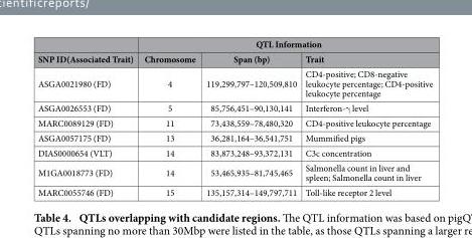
<table><thead><tr><td rowspan="2">SNP ID(Associated Trait)</td><td colspan="3">QTL Information</td></tr><tr><td>Chromosome</td><td>Span (bp)</td><td>Trait</td></tr></thead><tbody><tr><td>ASGA0021980 (FD)</td><td>4</td><td>119,299,797–120,509,810</td><td>CD4-positive; CD8-negative leukocyte percentage; CD4-positive leukocyte percentage</td></tr><tr><td>ASGA0026553 (FD)</td><td>5</td><td>85,756,451–90,130,141</td><td>Interferon-γ level</td></tr><tr><td>MARC0089129 (FD)</td><td>11</td><td>73,438,559–78,480,320</td><td>CD4-positive leukocyte percentage</td></tr><tr><td>ASGA0057175 (FD)</td><td>13</td><td>36,281,164–36,541,751</td><td>Mummified pigs</td></tr><tr><td>DIAS0000654 (VLT)</td><td>14</td><td>83,873,248–93,372,131</td><td>C3c concentration</td></tr><tr><td>M1GA0018773 (FD)</td><td>14</td><td>53,465,935–81,745,465</td><td>Salmonella count in liver and spleen; Salmonella count in liver</td></tr><tr><td>MARC0055746 (FD)</td><td>15</td><td>135,157,314–149,797,711</td><td>Toll-like receptor 2 level</td></tr></tbody></table>